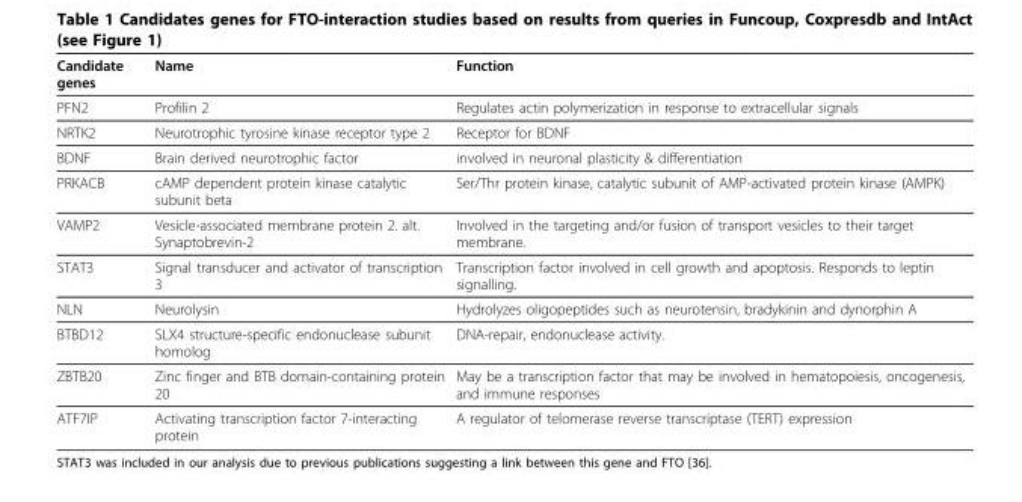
<table><thead><tr><td>Candidate genes</td><td>Name</td><td>Function</td></tr></thead><tbody><tr><td>PFN2</td><td>Profilin 2</td><td>Regulates actin polymerization in response to extracellular signals</td></tr><tr><td>NRTK2</td><td>Neurotrophic tyrosine kinase receptor type 2</td><td>Receptor for BDNF</td></tr><tr><td>BDNF</td><td>Brain derived neurotrophic factor</td><td>involved in neuronal plasticity &amp; differentiation</td></tr><tr><td>PRKACB</td><td>cAMP dependent protein kinase catalytic subunit beta</td><td>Ser/Thr protein kinase, catalytic subunit of AMP-activated protein kinase (AMPK)</td></tr><tr><td>VAMP2</td><td>Vesicle-associated membrane protein 2. alt. Synaptobrevin-2</td><td>Involved in the targeting and/or fusion of transport vesicles to their target membrane.</td></tr><tr><td>STAT3</td><td>Signal transducer and activator of transcription 3</td><td>Transcription factor involved in cell growth and apoptosis. Responds to leptin signalling.</td></tr><tr><td>NLN</td><td>Neurolysin</td><td>Hydrolyzes oligopeptides such as neurotensin, bradykinin and dynorphin A</td></tr><tr><td>BTBD12</td><td>SLX4 structure-specific endonuclease subunit homolog</td><td>DNA-repair, endonuclease activity.</td></tr><tr><td>ZBTB20</td><td>Zinc finger and BTB domain-containing protein 20</td><td>May be a transcription factor that may be involved in hematopoiesis, oncogenesis, and immune responses</td></tr><tr><td>ATF7IP</td><td>Activating transcription factor 7-interacting protein</td><td>A regulator of telomerase reverse transcriptase (TERT) expression</td></tr></tbody></table>